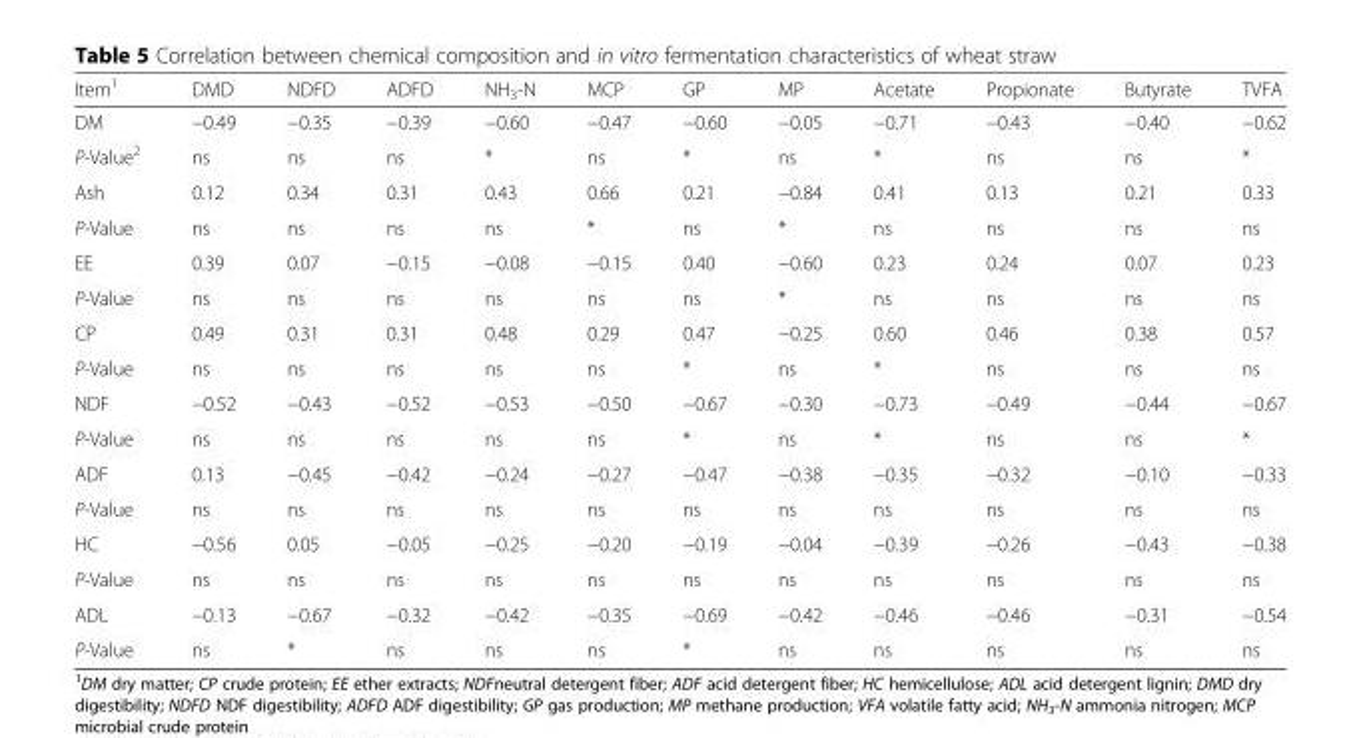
<table><thead><tr><td>Item<sup>1</sup></td><td>DMD</td><td>NDFD</td><td>ADFD</td><td>NH<sub>3</sub>-N</td><td>MCP</td><td>GP</td><td>MP</td><td>Acetate</td><td>Propionate</td><td>Butyrate</td><td>TVFA</td></tr></thead><tbody><tr><td>DM</td><td>−0.49</td><td>−0.35</td><td>−0.39</td><td>−0.60</td><td>−0.47</td><td>−0.60</td><td>−0.05</td><td>−0.71</td><td>−0.43</td><td>−0.40</td><td>−0.62</td></tr><tr><td>P-Value<sup>2</sup></td><td>ns</td><td>ns</td><td>ns</td><td>*</td><td>ns</td><td>*</td><td>ns</td><td>*</td><td>ns</td><td>ns</td><td>*</td></tr><tr><td>Ash</td><td>0.12</td><td>0.34</td><td>0.31</td><td>0.43</td><td>0.66</td><td>0.21</td><td>−0.84</td><td>0.41</td><td>0.13</td><td>0.21</td><td>0.33</td></tr><tr><td>P-Value</td><td>ns</td><td>ns</td><td>ns</td><td>ns</td><td>*</td><td>ns</td><td>*</td><td>ns</td><td>ns</td><td>ns</td><td>ns</td></tr><tr><td>EE</td><td>0.39</td><td>0.07</td><td>−0.15</td><td>−0.08</td><td>−0.15</td><td>0.40</td><td>−0.60</td><td>0.23</td><td>0.24</td><td>0.07</td><td>0.23</td></tr><tr><td>P-Value</td><td>ns</td><td>ns</td><td>ns</td><td>ns</td><td>ns</td><td>ns</td><td>*</td><td>ns</td><td>ns</td><td>ns</td><td>ns</td></tr><tr><td>CP</td><td>0.49</td><td>0.31</td><td>0.31</td><td>0.48</td><td>0.29</td><td>0.47</td><td>−0.25</td><td>0.60</td><td>0.46</td><td>0.38</td><td>0.57</td></tr><tr><td>P-Value</td><td>ns</td><td>ns</td><td>ns</td><td>ns</td><td>ns</td><td>*</td><td>ns</td><td>*</td><td>ns</td><td>ns</td><td>ns</td></tr><tr><td>NDF</td><td>−0.52</td><td>−0.43</td><td>−0.52</td><td>−0.53</td><td>−0.50</td><td>−0.67</td><td>−0.30</td><td>−0.73</td><td>−0.49</td><td>−0.44</td><td>−0.67</td></tr><tr><td>P-Value</td><td>ns</td><td>ns</td><td>ns</td><td>ns</td><td>ns</td><td>*</td><td>ns</td><td>*</td><td>ns</td><td>ns</td><td>*</td></tr><tr><td>ADF</td><td>0.13</td><td>−0.45</td><td>−0.42</td><td>−0.24</td><td>−0.27</td><td>−0.47</td><td>−0.38</td><td>−0.35</td><td>−0.32</td><td>−0.10</td><td>−0.33</td></tr><tr><td>P-Value</td><td>ns</td><td>ns</td><td>ns</td><td>ns</td><td>ns</td><td>ns</td><td>ns</td><td>ns</td><td>ns</td><td>ns</td><td>ns</td></tr><tr><td>HC</td><td>−0.56</td><td>0.05</td><td>−0.05</td><td>−0.25</td><td>−0.20</td><td>−0.19</td><td>−0.04</td><td>−0.39</td><td>−0.26</td><td>−0.43</td><td>−0.38</td></tr><tr><td>P-Value</td><td>ns</td><td>ns</td><td>ns</td><td>ns</td><td>ns</td><td>ns</td><td>ns</td><td>ns</td><td>ns</td><td>ns</td><td>ns</td></tr><tr><td>ADL</td><td>−0.13</td><td>−0.67</td><td>−0.32</td><td>−0.42</td><td>−0.35</td><td>−0.69</td><td>−0.42</td><td>−0.46</td><td>−0.46</td><td>−0.31</td><td>−0.54</td></tr><tr><td>P-Value</td><td>ns</td><td>*</td><td>ns</td><td>ns</td><td>ns</td><td>*</td><td>ns</td><td>ns</td><td>ns</td><td>ns</td><td>ns</td></tr></tbody></table>